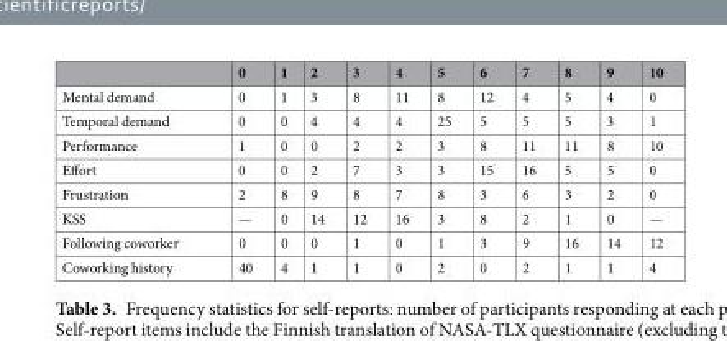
<table><thead><tr><td></td><td>0</td><td>1</td><td>2</td><td>3</td><td>4</td><td>5</td><td>6</td><td>7</td><td>8</td><td>9</td><td>10</td></tr></thead><tbody><tr><td>Mental demand</td><td>0</td><td>1</td><td>3</td><td>8</td><td>11</td><td>8</td><td>12</td><td>4</td><td>5</td><td>4</td><td>0</td></tr><tr><td>Temporal demand</td><td>0</td><td>0</td><td>4</td><td>4</td><td>4</td><td>25</td><td>5</td><td>5</td><td>5</td><td>3</td><td>1</td></tr><tr><td>Performance</td><td>1</td><td>0</td><td>0</td><td>2</td><td>2</td><td>3</td><td>8</td><td>11</td><td>11</td><td>8</td><td>10</td></tr><tr><td>Effort</td><td>0</td><td>0</td><td>2</td><td>7</td><td>3</td><td>3</td><td>15</td><td>16</td><td>5</td><td>5</td><td>0</td></tr><tr><td>Frustration</td><td>2</td><td>8</td><td>9</td><td>8</td><td>7</td><td>8</td><td>3</td><td>6</td><td>3</td><td>2</td><td>0</td></tr><tr><td>KSS</td><td>—</td><td>0</td><td>14</td><td>12</td><td>16</td><td>3</td><td>8</td><td>2</td><td>1</td><td>0</td><td>—</td></tr><tr><td>Following coworker</td><td>0</td><td>0</td><td>0</td><td>1</td><td>0</td><td>1</td><td>3</td><td>9</td><td>16</td><td>14</td><td>12</td></tr><tr><td>Coworking history</td><td>40</td><td>4</td><td>1</td><td>1</td><td>0</td><td>2</td><td>0</td><td>2</td><td>1</td><td>1</td><td>4</td></tr></tbody></table>